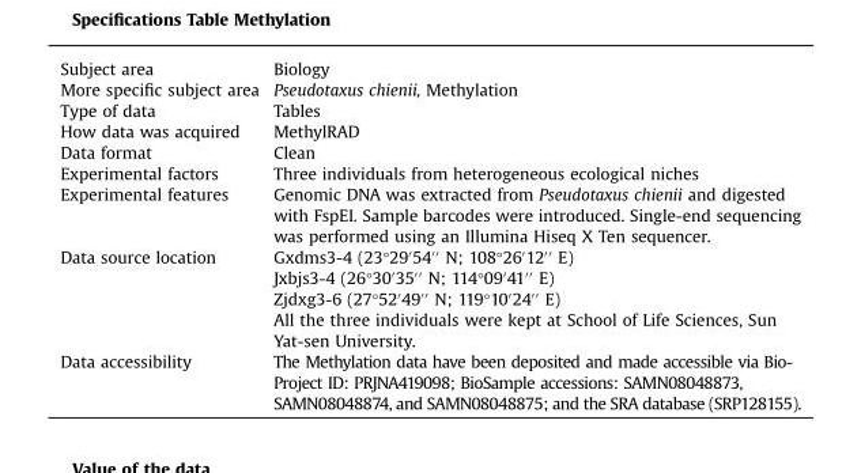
<table><tbody><tr><td>Subject area</td><td>Biology</td></tr><tr><td>More specific subject area</td><td>Pseudotaxus chienii, Methylation</td></tr><tr><td>Type of data</td><td>Tables</td></tr><tr><td>How data was acquired</td><td>MethylRAD</td></tr><tr><td>Data format</td><td>Clean</td></tr><tr><td>Experimental factors</td><td>Three individuals from heterogeneous ecological niches</td></tr><tr><td>Experimental features</td><td>Genomic DNA was extracted from Pseudotaxus chienii and digested with FspEI. Sample barcodes were introduced. Single-end sequencing was performed using an Illumina Hiseq X Ten sequencer.</td></tr><tr><td rowspan="5">Data source location</td><td>Gxdms3-4 (23°29′54′′ N; 108°26′12′′ E)</td></tr><tr><td>Jxbjs3-4 (26°30′35′′ N; 114°09′41′′ E)</td></tr><tr><td>Zjdxg3-6 (27°52′49′′ N; 119°10′24′′ E)</td></tr><tr><td>All the three individuals were kept at School of Life Sciences, Sun</td></tr><tr><td>Yat-sen University.</td></tr><tr><td>Data accessibility</td><td>The Methylation data have been deposited and made accessible via Bio- Project ID: PRJNA419098; BioSample accessions: SAMN08048873, SAMN08048874, and SAMN08048875; and the SRA database (SRP128155).</td></tr></tbody></table>